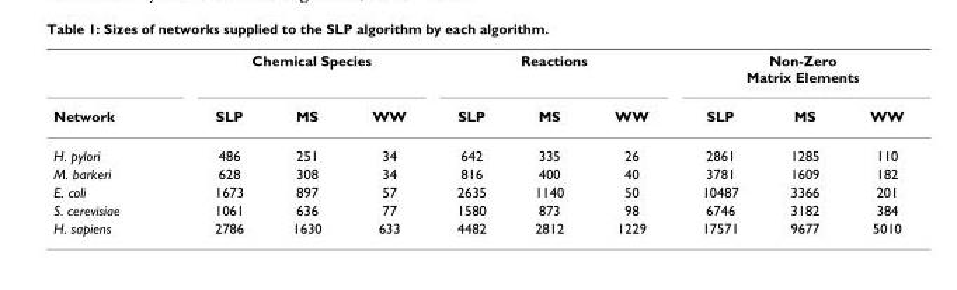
<table><thead><tr><td rowspan="2">Network</td><td colspan="3">Chemical Species</td><td colspan="3">Reactions</td><td colspan="3">Non-Zero Matrix Elements</td></tr><tr><td>SLP</td><td>MS</td><td>WW</td><td>SLP</td><td>MS</td><td>WW</td><td>SLP</td><td>MS</td><td>WW</td></tr></thead><tbody><tr><td>H. pylori</td><td>486</td><td>251</td><td>34</td><td>642</td><td>335</td><td>26</td><td>2861</td><td>1285</td><td>110</td></tr><tr><td>M. barkeri</td><td>628</td><td>308</td><td>34</td><td>816</td><td>400</td><td>40</td><td>3781</td><td>1609</td><td>182</td></tr><tr><td>E. coli</td><td>1673</td><td>897</td><td>57</td><td>2635</td><td>1140</td><td>50</td><td>10487</td><td>3366</td><td>201</td></tr><tr><td>S. cerevisiae</td><td>1061</td><td>636</td><td>77</td><td>1580</td><td>873</td><td>98</td><td>6746</td><td>3182</td><td>384</td></tr><tr><td>H. sapiens</td><td>2786</td><td>1630</td><td>633</td><td>4482</td><td>2812</td><td>1229</td><td>17571</td><td>9677</td><td>5010</td></tr></tbody></table>